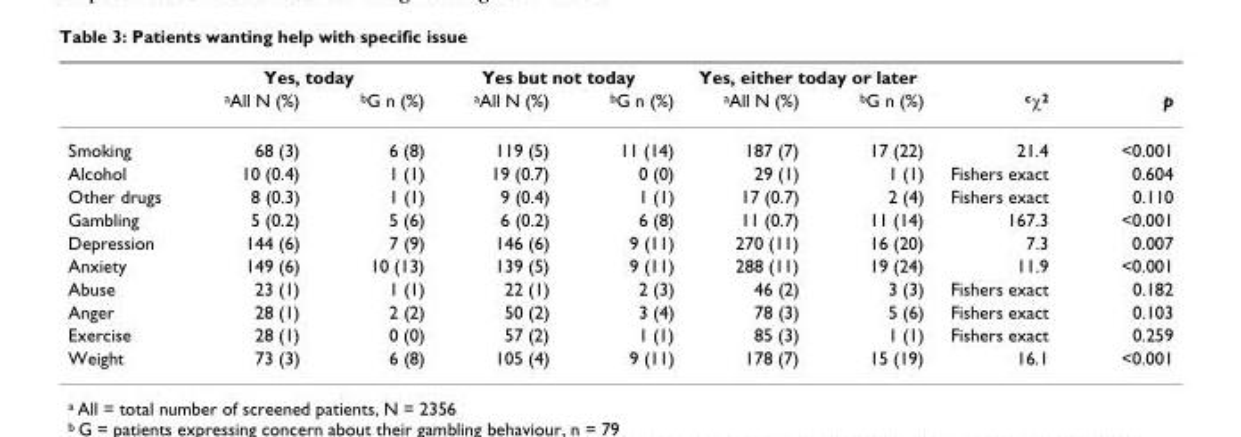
<table><thead><tr><td rowspan="2"></td><td colspan="2">Yes, today</td><td colspan="2">Yes but not today</td><td colspan="2">Yes, either today or later</td><td rowspan="2"><sup>c</sup>χ<sup>2</sup></td><td rowspan="2">p</td></tr><tr><td><sup>a</sup>All N (%)</td><td><sup>b</sup>G n (%)</td><td><sup>a</sup>All N (%)</td><td><sup>b</sup>G n (%)</td><td><sup>a</sup>All N (%)</td><td><sup>b</sup>G n (%)</td></tr></thead><tbody><tr><td>Smoking</td><td>68 (3)</td><td>6 (8)</td><td>119 (5)</td><td>11 (14)</td><td>187 (7)</td><td>17 (22)</td><td>21.4</td><td>&lt;0.001</td></tr><tr><td>Alcohol</td><td>10 (0.4)</td><td>1 (1)</td><td>19 (0.7)</td><td>0 (0)</td><td>29 (1)</td><td>1 (1)</td><td>Fishers exact</td><td>0.604</td></tr><tr><td>Other drugs</td><td>8 (0.3)</td><td>1 (1)</td><td>9 (0.4)</td><td>1 (1)</td><td>17 (0.7)</td><td>2 (4)</td><td>Fishers exact</td><td>0.110</td></tr><tr><td>Gambling</td><td>5 (0.2)</td><td>5 (6)</td><td>6 (0.2)</td><td>6 (8)</td><td>11 (0.7)</td><td>11 (14)</td><td>167.3</td><td>&lt;0.001</td></tr><tr><td>Depression</td><td>144 (6)</td><td>7 (9)</td><td>146 (6)</td><td>9 (11)</td><td>270 (11)</td><td>16 (20)</td><td>7.3</td><td>0.007</td></tr><tr><td>Anxiety</td><td>149 (6)</td><td>10 (13)</td><td>139 (5)</td><td>9 (11)</td><td>288 (11)</td><td>19 (24)</td><td>11.9</td><td>&lt;0.001</td></tr><tr><td>Abuse</td><td>23 (1)</td><td>1 (1)</td><td>22 (1)</td><td>2 (3)</td><td>46 (2)</td><td>3 (3)</td><td>Fishers exact</td><td>0.182</td></tr><tr><td>Anger</td><td>28 (1)</td><td>2 (2)</td><td>50 (2)</td><td>3 (4)</td><td>78 (3)</td><td>5 (6)</td><td>Fishers exact</td><td>0.103</td></tr><tr><td>Exercise</td><td>28 (1)</td><td>0 (0)</td><td>57 (2)</td><td>1 (1)</td><td>85 (3)</td><td>1 (1)</td><td>Fishers exact</td><td>0.259</td></tr><tr><td>Weight</td><td>73 (3)</td><td>6 (8)</td><td>105 (4)</td><td>9 (11)</td><td>178 (7)</td><td>15 (19)</td><td>16.1</td><td>&lt;0.001</td></tr></tbody></table>